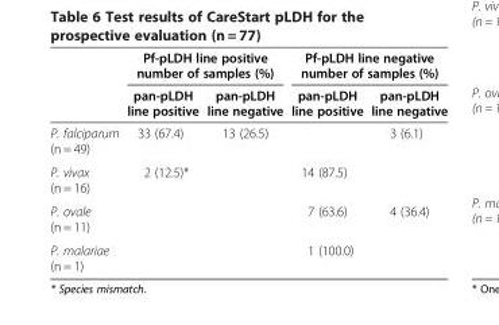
<table><thead><tr><td rowspan="2"></td><td colspan="2">Pf-pLDH line positive number of samples (%)</td><td colspan="2">Pf-pLDH line negative number of samples (%)</td></tr><tr><td>pan-pLDH line positive</td><td>pan-pLDH line negative</td><td>pan-pLDH line positive</td><td>pan-pLDH line negative</td></tr></thead><tbody><tr><td>P. falciparum (n = 49)</td><td>33 (67.4)</td><td>13 (26.5)</td><td></td><td>3 (6.1)</td></tr><tr><td>P. vivax (n = 16)</td><td>2 (12.5)*</td><td></td><td>14 (87.5)</td><td></td></tr><tr><td>P. ovale (n = 11)</td><td></td><td></td><td>7 (63.6)</td><td>4 (36.4)</td></tr><tr><td>P. malariae (n = 1)</td><td></td><td></td><td>1 (100.0)</td><td></td></tr></tbody></table>